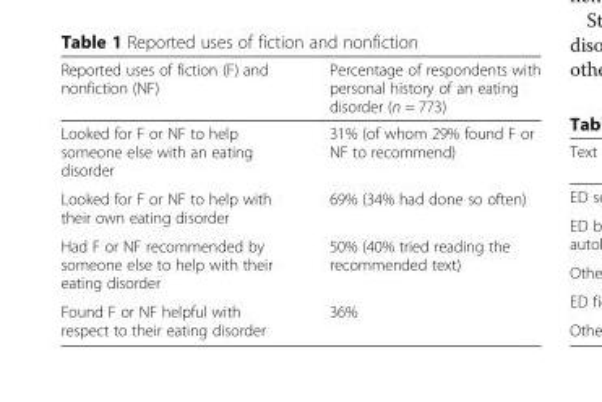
<table><thead><tr><td>Reported uses of fiction (F) and nonfiction (NF)</td><td>Percentage of respondents with personal history of an eating disorder (n = 773)</td></tr></thead><tbody><tr><td>Looked for F or NF to help someone else with an eating disorder</td><td>31% (of whom 29% found F or NF to recommend)</td></tr><tr><td>Looked for F or NF to help with their own eating disorder</td><td>69% (34% had done so often)</td></tr><tr><td>Had F or NF recommended by someone else to help with their eating disorder</td><td>50% (40% tried reading the recommended text)</td></tr><tr><td>Found F or NF helpful with respect to their eating disorder</td><td>36%</td></tr></tbody></table>